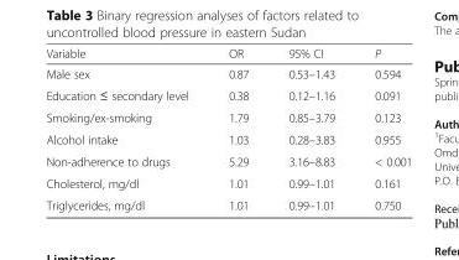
<table><thead><tr><td>Variable</td><td>OR</td><td>95% CI</td><td>P</td></tr></thead><tbody><tr><td>Male sex</td><td>0.87</td><td>0.53–1.43</td><td>0.594</td></tr><tr><td>Education ≤ secondary level</td><td>0.38</td><td>0.12–1.16</td><td>0.091</td></tr><tr><td>Smoking/ex-smoking</td><td>1.79</td><td>0.85–3.79</td><td>0.123</td></tr><tr><td>Alcohol intake</td><td>1.03</td><td>0.28–3.83</td><td>0.955</td></tr><tr><td>Non-adherence to drugs</td><td>5.29</td><td>3.16–8.83</td><td>&lt; 0.001</td></tr><tr><td>Cholesterol, mg/dl</td><td>1.01</td><td>0.99–1.01</td><td>0.161</td></tr><tr><td>Triglycerides, mg/dl</td><td>1.01</td><td>0.99–1.01</td><td>0.750</td></tr></tbody></table>